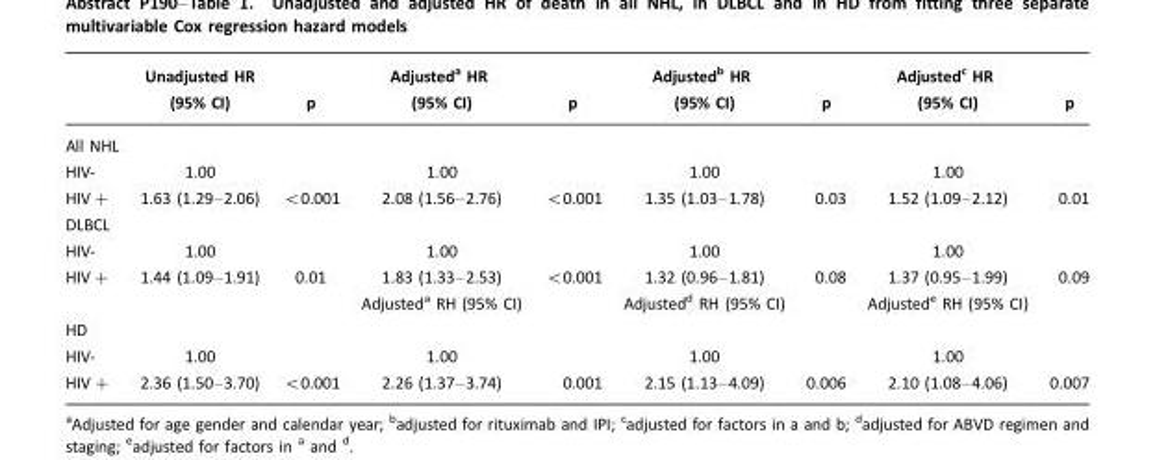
<table><thead><tr><td></td><td>Unadjusted HR (95% CI)</td><td>p</td><td>Adjusteda HR (95% CI)</td><td>p</td><td>Adjustedb HR (95% CI)</td><td>p</td><td>Adjustedc HR (95% CI)</td><td>p</td></tr></thead><tbody><tr><td colspan="9">All NHL</td></tr><tr><td>HIV-</td><td>1.00</td><td></td><td>1.00</td><td></td><td>1.00</td><td></td><td>1.00</td><td></td></tr><tr><td>HIV+</td><td>1.63 (1.29–2.06)</td><td>&lt;0.001</td><td>2.08 (1.56–2.76)</td><td>&lt;0.001</td><td>1.35 (1.03–1.78)</td><td>0.03</td><td>1.52 (1.09–2.12)</td><td>0.01</td></tr><tr><td colspan="9">DLBCL</td></tr><tr><td>HIV-</td><td>1.00</td><td></td><td>1.00</td><td></td><td>1.00</td><td></td><td>1.00</td><td></td></tr><tr><td rowspan="2">HIV+</td><td>1.44 (1.09–1.91)</td><td>0.01</td><td>1.83 (1.33–2.53)</td><td>&lt;0.001</td><td>1.32 (0.96–1.81)</td><td>0.08</td><td>1.37 (0.95–1.99)</td><td>0.09</td></tr><tr><td></td><td></td><td>Adjusteda RH (95% CI)</td><td></td><td>Adjustedd RH (95% CI)</td><td></td><td>Adjustede RH (95% CI)</td><td></td></tr><tr><td colspan="9">HD</td></tr><tr><td>HIV-</td><td>1.00</td><td></td><td>1.00</td><td></td><td>1.00</td><td></td><td>1.00</td><td></td></tr><tr><td>HIV+</td><td>2.36 (1.50–3.70)</td><td>&lt;0.001</td><td>2.26 (1.37–3.74)</td><td>0.001</td><td>2.15 (1.13–4.09)</td><td>0.006</td><td>2.10 (1.08–4.06)</td><td>0.007</td></tr></tbody></table>